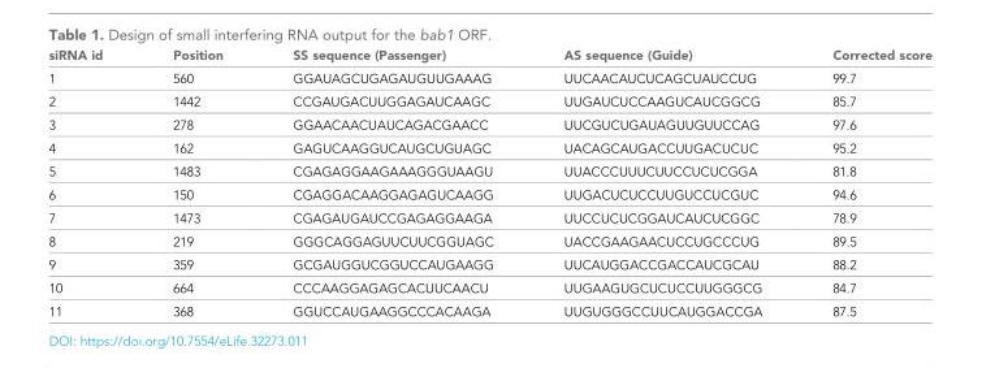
<table><thead><tr><td>siRNA id</td><td>Position</td><td>SS sequence (Passenger)</td><td>AS sequence (Guide)</td><td>Corrected score</td></tr></thead><tbody><tr><td>1</td><td>560</td><td>GGAUAGCUGAGAUGUUGAAAG</td><td>UUCAACAUCUCAGCUAUCCUG</td><td>99.7</td></tr><tr><td>2</td><td>1442</td><td>CCGAUGACUUGGAGAUCAAGC</td><td>UUGAUCUCCAAGUCAUCGGCG</td><td>85.7</td></tr><tr><td>3</td><td>278</td><td>GGAACAACUAUCAGACGAACC</td><td>UUCGUCUGAUAGUUGUUCCAG</td><td>97.6</td></tr><tr><td>4</td><td>162</td><td>GAGUCAAGGUCAUGCUGUAGC</td><td>UACAGCAUGACCUUGACUCUC</td><td>95.2</td></tr><tr><td>5</td><td>1483</td><td>CGAGAGGAAGAAAGGGUAAGU</td><td>UUACCCUUUCUUCCUCUCGGA</td><td>81.8</td></tr><tr><td>6</td><td>150</td><td>CGAGGACAAGGAGAGUCAAGG</td><td>UUGACUCUCCUUGUCCUCGUC</td><td>94.6</td></tr><tr><td>7</td><td>1473</td><td>CGAGAUGAUCCGAGAGGAAGA</td><td>UUCCUCUCGGAUCAUCUCGGC</td><td>78.9</td></tr><tr><td>8</td><td>219</td><td>GGGCAGGAGUUCUUCGGUAGC</td><td>UACCGAAGAACUCCUGCCCUG</td><td>89.5</td></tr><tr><td>9</td><td>359</td><td>GCGAUGGUCGGUCCAUGAAGG</td><td>UUCAUGGACCGACCAUCGCAU</td><td>88.2</td></tr><tr><td>10</td><td>664</td><td>CCCAAGGAGAGCACUUCAACU</td><td>UUGAAGUGCUCUCCUUGGGCG</td><td>84.7</td></tr><tr><td>11</td><td>368</td><td>GGUCCAUGAAGGCCCACAAGA</td><td>UUGUGGGCCUUCAUGGACCGA</td><td>87.5</td></tr></tbody></table>